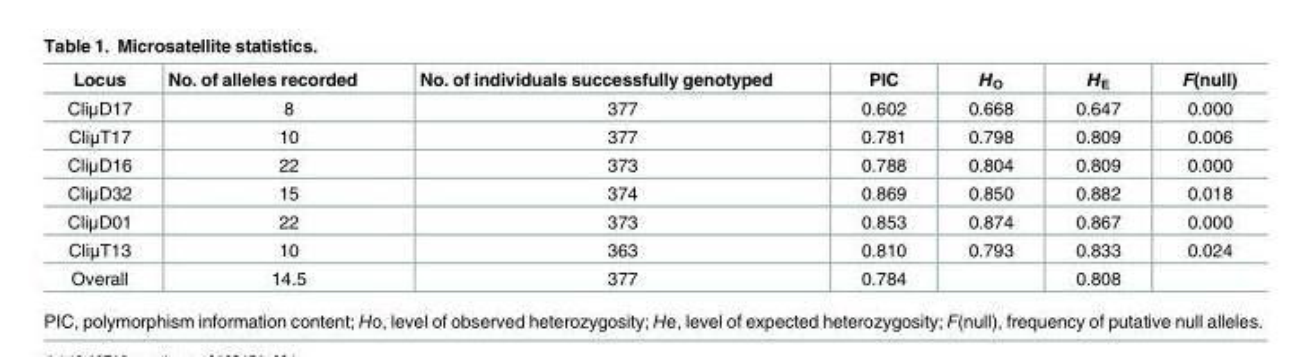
<table><thead><tr><td>Locus</td><td>No. of alleles recorded</td><td>No. of individuals successfully genotyped</td><td>PIC</td><td>H<sub>O</sub></td><td>H<sub>E</sub></td><td>F(null)</td></tr></thead><tbody><tr><td>CliμD17</td><td>8</td><td>377</td><td>0.602</td><td>0.668</td><td>0.647</td><td>0.000</td></tr><tr><td>CliμT17</td><td>10</td><td>377</td><td>0.781</td><td>0.798</td><td>0.809</td><td>0.006</td></tr><tr><td>CliμD16</td><td>22</td><td>373</td><td>0.788</td><td>0.804</td><td>0.809</td><td>0.000</td></tr><tr><td>CliμD32</td><td>15</td><td>374</td><td>0.869</td><td>0.850</td><td>0.882</td><td>0.018</td></tr><tr><td>CliμD01</td><td>22</td><td>373</td><td>0.853</td><td>0.874</td><td>0.867</td><td>0.000</td></tr><tr><td>CliμT13</td><td>10</td><td>363</td><td>0.810</td><td>0.793</td><td>0.833</td><td>0.024</td></tr><tr><td>Overall</td><td>14.5</td><td>377</td><td>0.784</td><td></td><td>0.808</td><td></td></tr></tbody></table>